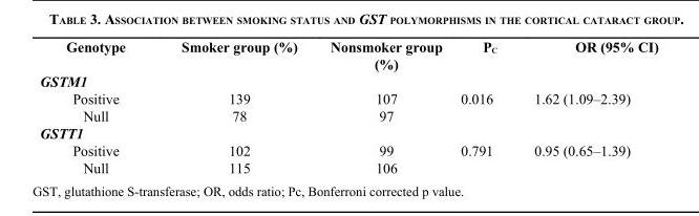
<table><thead><tr><td>Genotype</td><td>Smoker group (%)</td><td>Nonsmoker group (%)</td><td>P<sub>C</sub></td><td>OR (95% CI)</td></tr></thead><tbody><tr><td colspan="5">GSTM1</td></tr><tr><td>Positive</td><td>139</td><td>107</td><td rowspan="2">0.016</td><td rowspan="2">1.62 (1.09–2.39)</td></tr><tr><td>Null</td><td>78</td><td>97</td></tr><tr><td colspan="5">GSTT1</td></tr><tr><td>Positive</td><td>102</td><td>99</td><td rowspan="2">0.791</td><td rowspan="2">0.95 (0.65–1.39)</td></tr><tr><td>Null</td><td>115</td><td>106</td></tr></tbody></table>